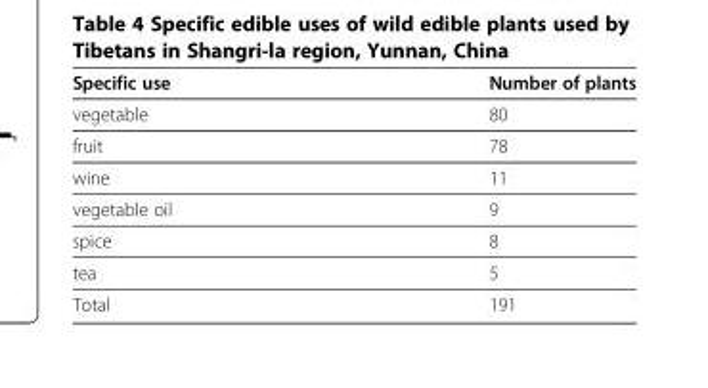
<table><thead><tr><td>Specific use</td><td>Number of plants</td></tr></thead><tbody><tr><td>vegetable</td><td>80</td></tr><tr><td>fruit</td><td>78</td></tr><tr><td>wine</td><td>11</td></tr><tr><td>vegetable oil</td><td>9</td></tr><tr><td>spice</td><td>8</td></tr><tr><td>tea</td><td>5</td></tr><tr><td>Total</td><td>191</td></tr></tbody></table>